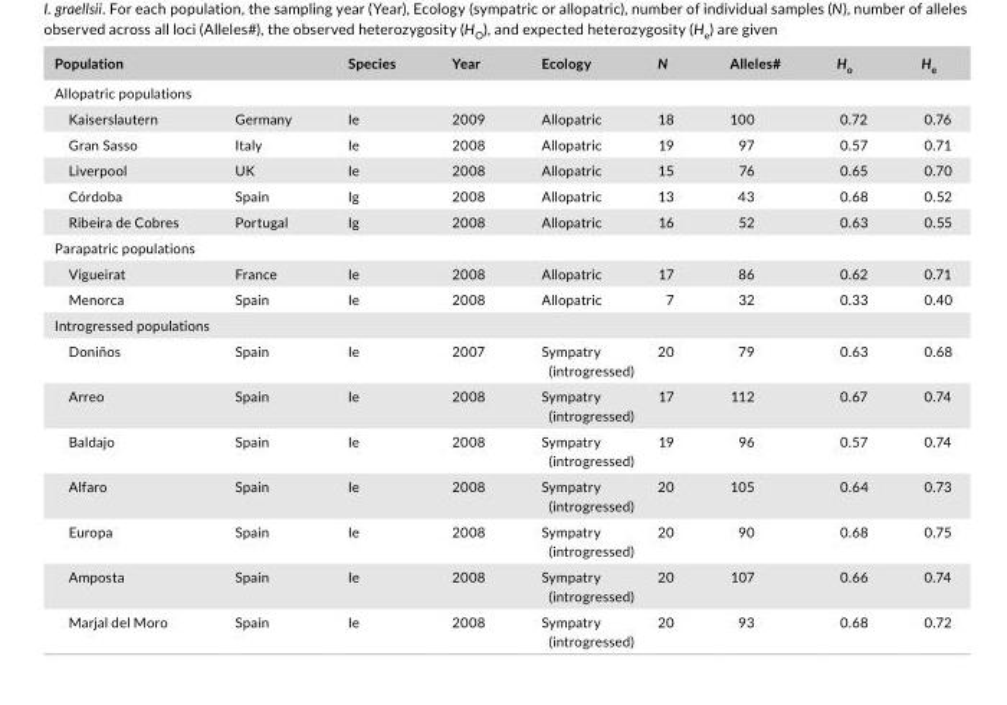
<table><thead><tr><td colspan="2">Population</td><td>Species</td><td>Year</td><td>Ecology</td><td>N</td><td>Alleles#</td><td>H<sub>o</sub></td><td>H<sub>e</sub></td></tr><tr><td colspan="9">Allopatric populations</td></tr><tr><td>Kaiserslautern</td><td>Germany</td><td>Ie</td><td>2009</td><td>Allopatric</td><td>18</td><td>100</td><td>0.72</td><td>0.76</td></tr></thead><tbody><tr><td>Gran Sasso</td><td>Italy</td><td>Ie</td><td>2008</td><td>Allopatric</td><td>19</td><td>97</td><td>0.57</td><td>0.71</td></tr><tr><td>Liverpool</td><td>UK</td><td>Ie</td><td>2008</td><td>Allopatric</td><td>15</td><td>76</td><td>0.65</td><td>0.70</td></tr><tr><td>Córdoba</td><td>Spain</td><td>Ig</td><td>2008</td><td>Allopatric</td><td>13</td><td>43</td><td>0.68</td><td>0.52</td></tr><tr><td>Ribeira de Cobres</td><td>Portugal</td><td>Ig</td><td>2008</td><td>Allopatric</td><td>16</td><td>52</td><td>0.63</td><td>0.55</td></tr><tr><td colspan="9">Parapatric populations</td></tr><tr><td>Vigueirat</td><td>France</td><td>Ie</td><td>2008</td><td>Allopatric</td><td>17</td><td>86</td><td>0.62</td><td>0.71</td></tr><tr><td>Menorca</td><td>Spain</td><td>Ie</td><td>2008</td><td>Allopatric</td><td>7</td><td>32</td><td>0.33</td><td>0.40</td></tr><tr><td colspan="9">Introgressed populations</td></tr><tr><td>Doniños</td><td>Spain</td><td>Ie</td><td>2007</td><td>Sympatry (introgressed)</td><td>20</td><td>79</td><td>0.63</td><td>0.68</td></tr><tr><td>Arreo</td><td>Spain</td><td>Ie</td><td>2008</td><td>Sympatry (introgressed)</td><td>17</td><td>112</td><td>0.67</td><td>0.74</td></tr><tr><td>Baldajo</td><td>Spain</td><td>Ie</td><td>2008</td><td>Sympatry (introgressed)</td><td>19</td><td>96</td><td>0.57</td><td>0.74</td></tr><tr><td>Alfaro</td><td>Spain</td><td>Ie</td><td>2008</td><td>Sympatry (introgressed)</td><td>20</td><td>105</td><td>0.64</td><td>0.73</td></tr><tr><td>Europa</td><td>Spain</td><td>Ie</td><td>2008</td><td>Sympatry (introgressed)</td><td>20</td><td>90</td><td>0.68</td><td>0.75</td></tr><tr><td>Amposta</td><td>Spain</td><td>Ie</td><td>2008</td><td>Sympatry (introgressed)</td><td>20</td><td>107</td><td>0.66</td><td>0.74</td></tr><tr><td>Marjal del Moro</td><td>Spain</td><td>Ie</td><td>2008</td><td>Sympatry (introgressed)</td><td>20</td><td>93</td><td>0.68</td><td>0.72</td></tr></tbody></table>